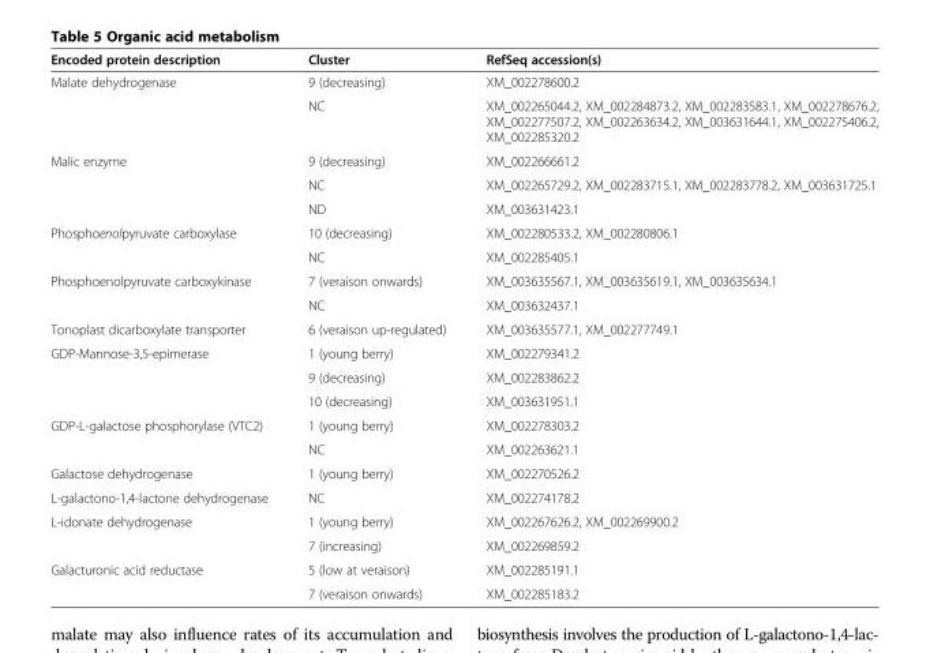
<table><thead><tr><td>Encoded protein description</td><td>Cluster</td><td>RefSeq accession(s)</td></tr></thead><tbody><tr><td rowspan="2">Malate dehydrogenase</td><td>9 (decreasing)</td><td>XM_002278600.2</td></tr><tr><td>NC</td><td>XM_002265044.2, XM_002284873.2, XM_002283583.1, XM_002278676.2, XM_002277507.2, XM_002263634.2, XM_003631644.1, XM_002275406.2, XM_002285320.2</td></tr><tr><td rowspan="3">Malic enzyme</td><td>9 (decreasing)</td><td>XM_002266661.2</td></tr><tr><td>NC</td><td>XM_002265729.2, XM_002283715.1, XM_002283778.2, XM_003631725.1</td></tr><tr><td>ND</td><td>XM_003631423.1</td></tr><tr><td rowspan="2">Phosphoenolpyruvate carboxylase</td><td>10 (decreasing)</td><td>XM_002280533.2, XM_002280806.1</td></tr><tr><td>NC</td><td>XM_002285405.1</td></tr><tr><td rowspan="2">Phosphoenolpyruvate carboxykinase</td><td>7 (veraison onwards)</td><td>XM_003635567.1, XM_003635619.1, XM_003635634.1</td></tr><tr><td>NC</td><td>XM_003632437.1</td></tr><tr><td>Tonoplast dicarboxylate transporter</td><td>6 (veraison up-regulated)</td><td>XM_003635577.1, XM_002277749.1</td></tr><tr><td rowspan="3">GDP-Mannose-3,5-epimerase</td><td>1 (young berry)</td><td>XM_002279341.2</td></tr><tr><td>9 (decreasing)</td><td>XM_002283862.2</td></tr><tr><td>10 (decreasing)</td><td>XM_003631951.1</td></tr><tr><td rowspan="2">GDP-L-galactose phosphorylase (VTC2)</td><td>1 (young berry)</td><td>XM_002278303.2</td></tr><tr><td>NC</td><td>XM_002263621.1</td></tr><tr><td>Galactose dehydrogenase</td><td>1 (young berry)</td><td>XM_002270526.2</td></tr><tr><td>L-galactono-1,4-lactone dehydrogenase</td><td>NC</td><td>XM_002274178.2</td></tr><tr><td rowspan="2">L-idonate dehydrogenase</td><td>1 (young berry)</td><td>XM_002267626.2, XM_002269900.2</td></tr><tr><td>7 (increasing)</td><td>XM_002269859.2</td></tr><tr><td rowspan="2">Galacturonic acid reductase</td><td>5 (low at veraison)</td><td>XM_002285191.1</td></tr><tr><td>7 (veraison onwards)</td><td>XM_002285183.2</td></tr></tbody></table>